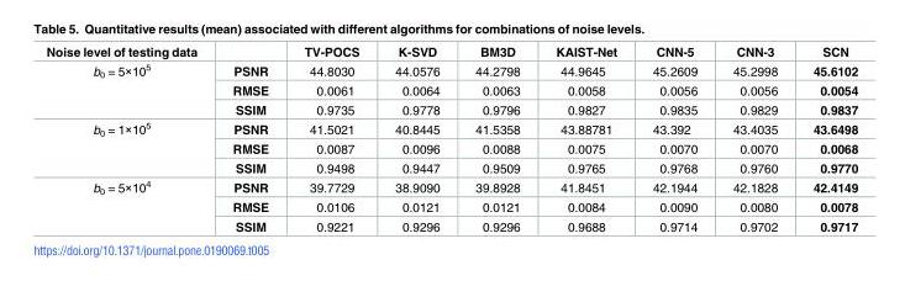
<table><thead><tr><td>Noise level of testing data</td><td></td><td>TV-POCS</td><td>K-SVD</td><td>BM3D</td><td>KAIST-Net</td><td>CNN-5</td><td>CNN-3</td><td>SCN</td></tr></thead><tbody><tr><td rowspan="3">b<sub>0</sub> = 5×10<sup>5</sup></td><td>PSNR</td><td>44.8030</td><td>44.0576</td><td>44.2798</td><td>44.9645</td><td>45.2609</td><td>45.2998</td><td>45.6102</td></tr><tr><td>RMSE</td><td>0.0061</td><td>0.0064</td><td>0.0063</td><td>0.0058</td><td>0.0056</td><td>0.0056</td><td>0.0054</td></tr><tr><td>SSIM</td><td>0.9735</td><td>0.9778</td><td>0.9796</td><td>0.9827</td><td>0.9835</td><td>0.9829</td><td>0.9837</td></tr><tr><td rowspan="3">b<sub>0</sub> = 1×10<sup>5</sup></td><td>PSNR</td><td>41.5021</td><td>40.8445</td><td>41.5358</td><td>43.88781</td><td>43.392</td><td>43.4035</td><td>43.6498</td></tr><tr><td>RMSE</td><td>0.0087</td><td>0.0096</td><td>0.0088</td><td>0.0075</td><td>0.0070</td><td>0.0070</td><td>0.0068</td></tr><tr><td>SSIM</td><td>0.9498</td><td>0.9447</td><td>0.9509</td><td>0.9765</td><td>0.9768</td><td>0.9760</td><td>0.9770</td></tr><tr><td rowspan="3">b<sub>0</sub> = 5×10<sup>4</sup></td><td>PSNR</td><td>39.7729</td><td>38.9090</td><td>39.8928</td><td>41.8451</td><td>42.1944</td><td>42.1828</td><td>42.4149</td></tr><tr><td>RMSE</td><td>0.0106</td><td>0.0121</td><td>0.0121</td><td>0.0084</td><td>0.0090</td><td>0.0080</td><td>0.0078</td></tr><tr><td>SSIM</td><td>0.9221</td><td>0.9296</td><td>0.9296</td><td>0.9688</td><td>0.9714</td><td>0.9702</td><td>0.9717</td></tr></tbody></table>